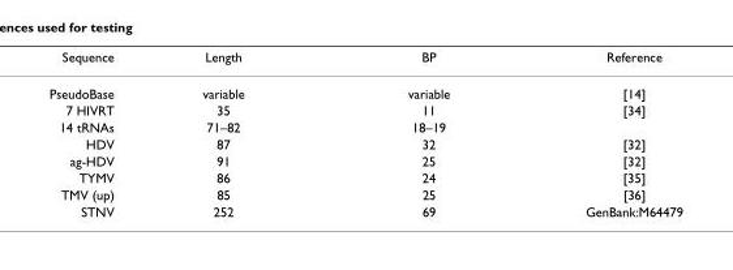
<table><thead><tr><td>Sequence</td><td>Length</td><td>BP</td><td>Reference</td></tr></thead><tbody><tr><td>PseudoBase</td><td>variable</td><td>variable</td><td>[14]</td></tr><tr><td>7 HIVRT</td><td>35</td><td>11</td><td>[34]</td></tr><tr><td>14 tRNAs</td><td>71–82</td><td>18–19</td><td></td></tr><tr><td>HDV</td><td>87</td><td>32</td><td>[32]</td></tr><tr><td>ag-HDV</td><td>91</td><td>25</td><td>[32]</td></tr><tr><td>TYMV</td><td>86</td><td>24</td><td>[35]</td></tr><tr><td>TMV (up)</td><td>85</td><td>25</td><td>[36]</td></tr><tr><td>STNV</td><td>252</td><td>69</td><td>GenBank:M64479</td></tr></tbody></table>